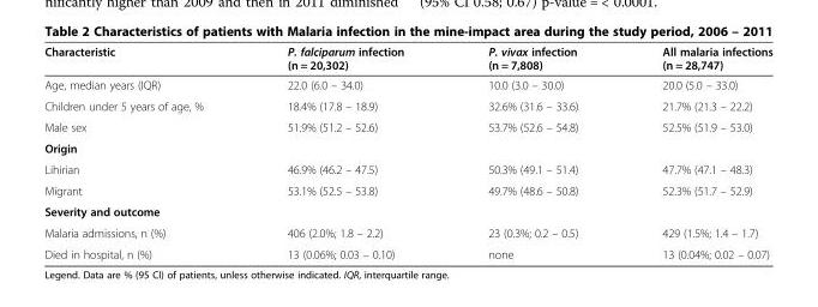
<table><thead><tr><td>Characteristic</td><td>P. falciparum infection (n = 20,302)</td><td>P. vivax infection (n = 7,808)</td><td>All malaria infections (n = 28,747)</td></tr></thead><tbody><tr><td>Age, median years (IQR)</td><td>22.0 (6.0 – 34.0)</td><td>10.0 (3.0 – 30.0)</td><td>20.0 (5.0 – 33.0)</td></tr><tr><td>Children under 5 years of age, %</td><td>18.4% (17.8 – 18.9)</td><td>32.6% (31.6 – 33.6)</td><td>21.7% (21.3 – 22.2)</td></tr><tr><td>Male sex</td><td>51.9% (51.2 – 52.6)</td><td>53.7% (52.6 – 54.8)</td><td>52.5% (51.9 – 53.0)</td></tr><tr><td colspan="4">Origin</td></tr><tr><td>Lihirian</td><td>46.9% (46.2 – 47.5)</td><td>50.3% (49.1 – 51.4)</td><td>47.7% (47.1 – 48.3)</td></tr><tr><td>Migrant</td><td>53.1% (52.5 – 53.8)</td><td>49.7% (48.6 – 50.8)</td><td>52.3% (51.7 – 52.9)</td></tr><tr><td colspan="4">Severity and outcome</td></tr><tr><td>Malaria admissions, n (%)</td><td>406 (2.0%; 1.8 – 2.2)</td><td>23 (0.3%; 0.2 – 0.5)</td><td>429 (1.5%; 1.4 – 1.7)</td></tr><tr><td>Died in hospital, n (%)</td><td>13 (0.06%; 0.03 – 0.10)</td><td>none</td><td>13 (0.04%; 0.02 – 0.07)</td></tr></tbody></table>